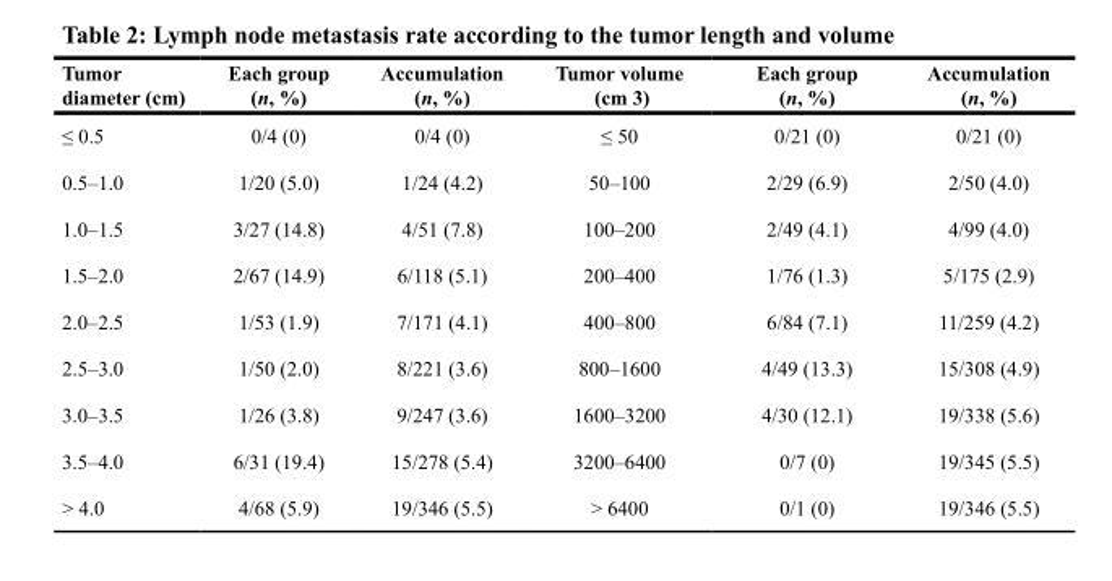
<table><thead><tr><td>Tumor diameter (cm)</td><td>Each group (n, %)</td><td>Accumulation (n, %)</td><td>Tumor volume (cm 3)</td><td>Each group (n, %)</td><td>Accumulation (n, %)</td></tr></thead><tbody><tr><td>≤ 0.5</td><td>0/4 (0)</td><td>0/4 (0)</td><td>≤ 50</td><td>0/21 (0)</td><td>0/21 (0)</td></tr><tr><td>0.5–1.0</td><td>1/20 (5.0)</td><td>1/24 (4.2)</td><td>50–100</td><td>2/29 (6.9)</td><td>2/50 (4.0)</td></tr><tr><td>1.0–1.5</td><td>3/27 (14.8)</td><td>4/51 (7.8)</td><td>100–200</td><td>2/49 (4.1)</td><td>4/99 (4.0)</td></tr><tr><td>1.5–2.0</td><td>2/67 (14.9)</td><td>6/118 (5.1)</td><td>200–400</td><td>1/76 (1.3)</td><td>5/175 (2.9)</td></tr><tr><td>2.0–2.5</td><td>1/53 (1.9)</td><td>7/171 (4.1)</td><td>400–800</td><td>6/84 (7.1)</td><td>11/259 (4.2)</td></tr><tr><td>2.5–3.0</td><td>1/50 (2.0)</td><td>8/221 (3.6)</td><td>800–1600</td><td>4/49 (13.3)</td><td>15/308 (4.9)</td></tr><tr><td>3.0–3.5</td><td>1/26 (3.8)</td><td>9/247 (3.6)</td><td>1600–3200</td><td>4/30 (12.1)</td><td>19/338 (5.6)</td></tr><tr><td>3.5–4.0</td><td>6/31 (19.4)</td><td>15/278 (5.4)</td><td>3200–6400</td><td>0/7 (0)</td><td>19/345 (5.5)</td></tr><tr><td>&gt; 4.0</td><td>4/68 (5.9)</td><td>19/346 (5.5)</td><td>&gt; 6400</td><td>0/1 (0)</td><td>19/346 (5.5)</td></tr></tbody></table>